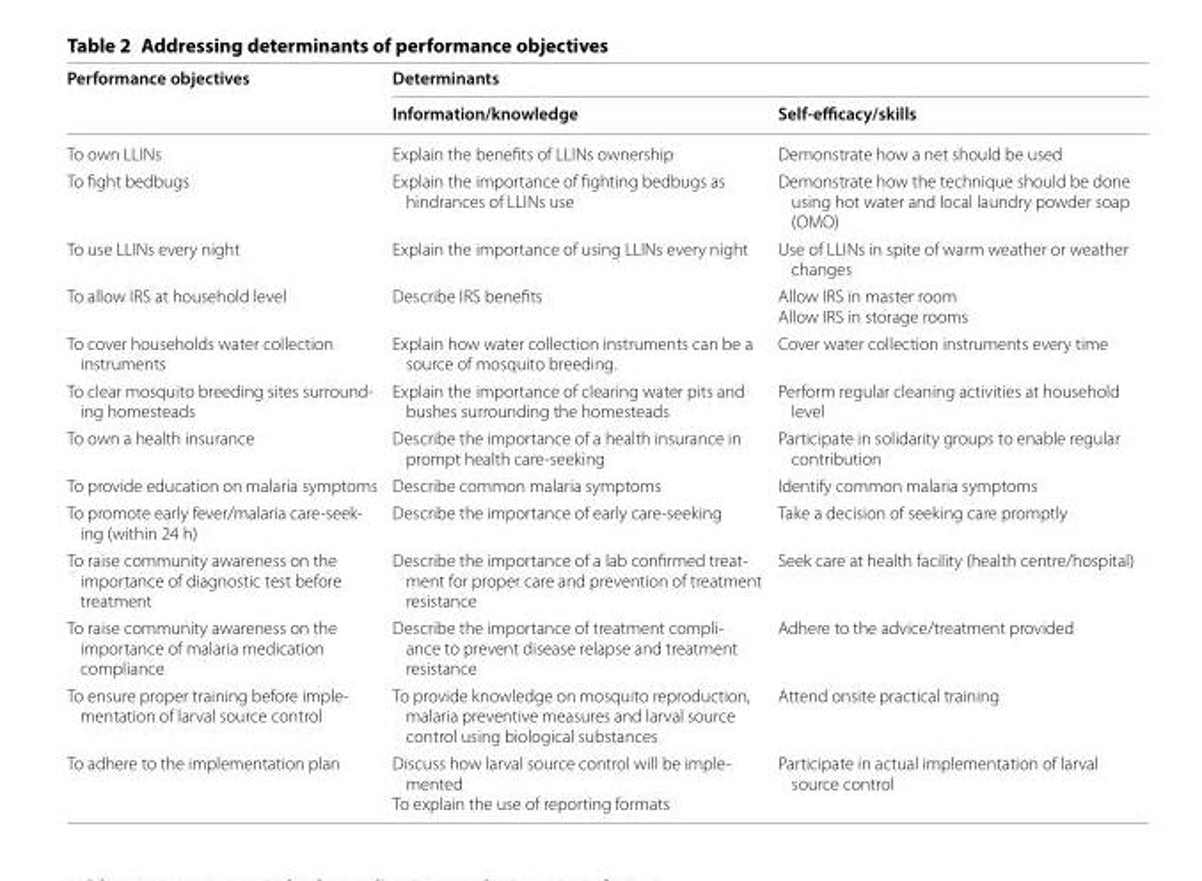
<table><thead><tr><td rowspan="2">Performance objectives</td><td colspan="2">Determinants</td></tr><tr><td>Information/knowledge</td><td>Self-efficacy/skills</td></tr></thead><tbody><tr><td>To own LLINs</td><td>Explain the benefits of LLINs ownership</td><td>Demonstrate how a net should be used</td></tr><tr><td>To fight bedbugs</td><td>Explain the importance of fighting bedbugs as hindrances of LLINs use</td><td>Demonstrate how the technique should be done using hot water and local laundry powder soap (OMO)</td></tr><tr><td>To use LLINs every night</td><td>Explain the importance of using LLINs every night</td><td>Use of LLINs in spite of warm weather or weather changes</td></tr><tr><td>To allow IRS at household level</td><td>Describe IRS benefits</td><td>Allow IRS in master room Allow IRS in storage rooms</td></tr><tr><td>To cover households water collection instruments</td><td>Explain how water collection instruments can be a source of mosquito breeding.</td><td>Cover water collection instruments every time</td></tr><tr><td>To clear mosquito breeding sites surround- ing homesteads</td><td>Explain the importance of clearing water pits and bushes surrounding the homesteads</td><td>Perform regular cleaning activities at household level</td></tr><tr><td>To own a health insurance</td><td>Describe the importance of a health insurance in prompt health care-seeking</td><td>Participate in solidarity groups to enable regular contribution</td></tr><tr><td>To provide education on malaria symptoms</td><td>Describe common malaria symptoms</td><td>Identify common malaria symptoms</td></tr><tr><td>To promote early fever/malaria care-seek- ing (within 24 h)</td><td>Describe the importance of early care-seeking</td><td>Take a decision of seeking care promptly</td></tr><tr><td>To raise community awareness on the importance of diagnostic test before treatment</td><td>Describe the importance of a lab confirmed treat- ment for proper care and prevention of treatment resistance</td><td>Seek care at health facility (health centre/hospital)</td></tr><tr><td>To raise community awareness on the importance of malaria medication compliance</td><td>Describe the importance of treatment compli- ance to prevent disease relapse and treatment resistance</td><td>Adhere to the advice/treatment provided</td></tr><tr><td>To ensure proper training before imple- mentation of larval source control</td><td>To provide knowledge on mosquito reproduction, malaria preventive measures and larval source control using biological substances</td><td>Attend onsite practical training</td></tr><tr><td>To adhere to the implementation plan</td><td>Discuss how larval source control will be imple- mented To explain the use of reporting formats</td><td>Participate in actual implementation of larval source control</td></tr></tbody></table>